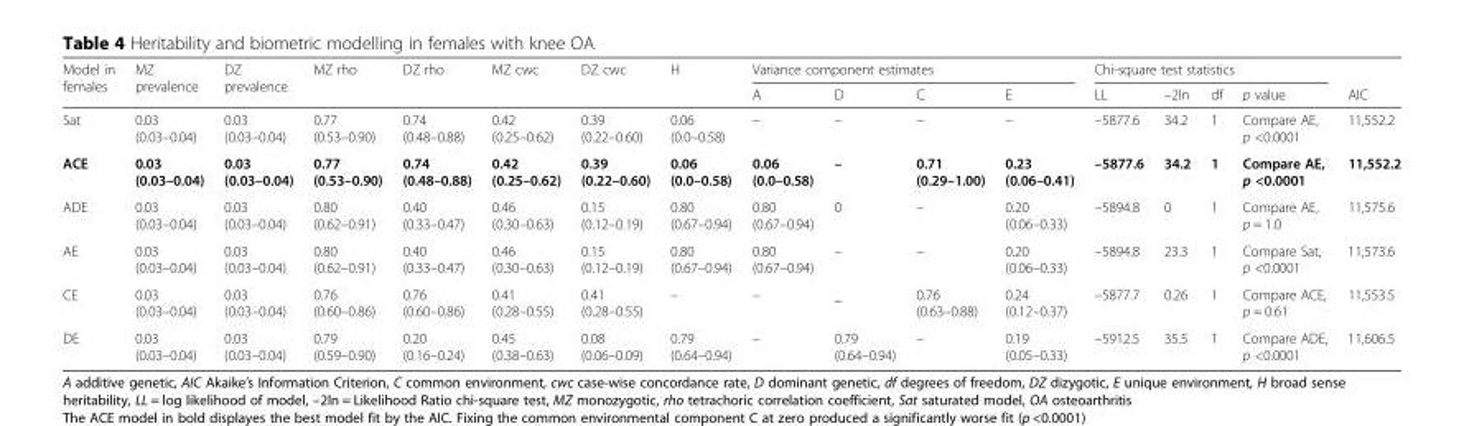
<table><thead><tr><td rowspan="2">Model in females</td><td rowspan="2">MZ prevalence</td><td rowspan="2">DZ prevalence</td><td rowspan="2">MZ rho</td><td rowspan="2">DZ rho</td><td rowspan="2">MZ cwc</td><td rowspan="2">DZ cwc</td><td rowspan="2">H</td><td colspan="4">Variance component estimates</td><td colspan="4">Chi-square test statistics</td><td rowspan="2">AIC</td></tr><tr><td>A</td><td>D</td><td>C</td><td>E</td><td>LL</td><td>–2ln</td><td>df</td><td>p value</td></tr></thead><tbody><tr><td>Sat</td><td>0.03 (0.03–0.04)</td><td>0.03 (0.03–0.04)</td><td>0.77 (0.53–0.90)</td><td>0.74 (0.48–0.88)</td><td>0.42 (0.25–0.62)</td><td>0.39 (0.22–0.60)</td><td>0.06 (0.0–0.58)</td><td>–</td><td>–</td><td>–</td><td>–</td><td>–5877.6</td><td>34.2</td><td>1</td><td>Compare AE, p &lt;0.0001</td><td>11,552.2</td></tr><tr><td>ACE</td><td>0.03 (0.03–0.04)</td><td>0.03 (0.03–0.04)</td><td>0.77 (0.53–0.90)</td><td>0.74 (0.48–0.88)</td><td>0.42 (0.25–0.62)</td><td>0.39 (0.22–0.60)</td><td>0.06 (0.0–0.58)</td><td>0.06 (0.0–0.58)</td><td>–</td><td>0.71 (0.29–1.00)</td><td>0.23 (0.06–0.41)</td><td>–5877.6</td><td>34.2</td><td>1</td><td>Compare AE, p &lt;0.0001</td><td>11,552.2</td></tr><tr><td>ADE</td><td>0.03 (0.03–0.04)</td><td>0.03 (0.03–0.04)</td><td>0.80 (0.62–0.91)</td><td>0.40 (0.33–0.47)</td><td>0.46 (0.30–0.63)</td><td>0.15 (0.12–0.19)</td><td>0.80 (0.67–0.94)</td><td>0.80 (0.67–0.94)</td><td>0</td><td>–</td><td>0.20 (0.06–0.33)</td><td>–5894.8</td><td>0</td><td>1</td><td>Compare AE, p = 1.0</td><td>11,575.6</td></tr><tr><td>AE</td><td>0.03 (0.03–0.04)</td><td>0.03 (0.03–0.04)</td><td>0.80 (0.62–0.91)</td><td>0.40 (0.33–0.47)</td><td>0.46 (0.30–0.63)</td><td>0.15 (0.12–0.19)</td><td>0.80 (0.67–0.94)</td><td>0.80 (0.67–0.94)</td><td>–</td><td>–</td><td>0.20 (0.06–0.33)</td><td>–5894.8</td><td>23.3</td><td>1</td><td>Compare Sat, p &lt;0.0001</td><td>11,573.6</td></tr><tr><td>CE</td><td>0.03 (0.03–0.04)</td><td>0.03 (0.03–0.04)</td><td>0.76 (0.60–0.86)</td><td>0.76 (0.60–0.86)</td><td>0.41 (0.28–0.55)</td><td>0.41 (0.28–0.55)</td><td>–</td><td>–</td><td>_</td><td>0.76 (0.63–0.88)</td><td>0.24 (0.12–0.37)</td><td>–5877.7</td><td>0.26</td><td>1</td><td>Compare ACE, p = 0.61</td><td>11,553.5</td></tr><tr><td>DE</td><td>0.03 (0.03–0.04)</td><td>0.03 (0.03–0.04)</td><td>0.79 (0.59–0.90)</td><td>0.20 (0.16–0.24)</td><td>0.45 (0.38–0.63)</td><td>0.08 (0.06–0.09)</td><td>0.79 (0.64–0.94)</td><td>–</td><td>0.79 (0.64–0.94)</td><td>–</td><td>0.19 (0.05–0.33)</td><td>–5912.5</td><td>35.5</td><td>1</td><td>Compare ADE, p &lt;0.0001</td><td>11,606.5</td></tr></tbody></table>